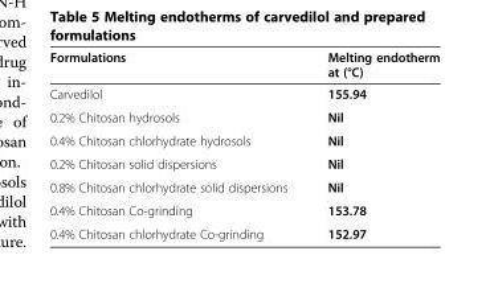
<table><thead><tr><td>Formulations</td><td>Melting endotherm at (°C)</td></tr></thead><tbody><tr><td>Carvedilol</td><td>155.94</td></tr><tr><td>0.2% Chitosan hydrosols</td><td>Nil</td></tr><tr><td>0.4% Chitosan chlorhydrate hydrosols</td><td>Nil</td></tr><tr><td>0.2% Chitosan solid dispersions</td><td>Nil</td></tr><tr><td>0.8% Chitosan chlorhydrate solid dispersions</td><td>Nil</td></tr><tr><td>0.4% Chitosan Co-grinding</td><td>153.78</td></tr><tr><td>0.4% Chitosan chlorhydrate Co-grinding</td><td>152.97</td></tr></tbody></table>